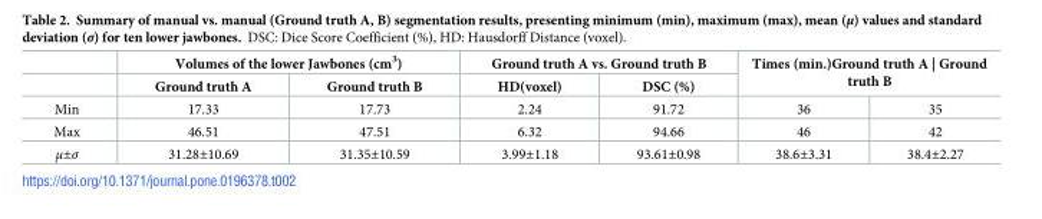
<table><thead><tr><td rowspan="3">Min</td><td colspan="2">Volumes of the lower Jawbones (cm<sup>3</sup>)</td><td colspan="2">Ground truth A vs. Ground truth B</td><td rowspan="2" colspan="2">Times (min.)Ground truth A | Ground truth B</td></tr><tr><td rowspan="2">Ground truth A 17.33</td><td rowspan="2">Ground truth B 17.73</td><td rowspan="2">HD(voxel) 2.24</td><td rowspan="2">DSC (%) 91.72</td></tr><tr><td>36</td><td>35</td></tr></thead><tbody><tr><td>Max</td><td>46.51</td><td>47.51</td><td>6.32</td><td>94.66</td><td>46</td><td>42</td></tr><tr><td>μ±σ</td><td>31.28±10.69</td><td>31.35±10.59</td><td>3.99±1.18</td><td>93.61±0.98</td><td>38.6±3.31</td><td>38.4±2.27</td></tr></tbody></table>